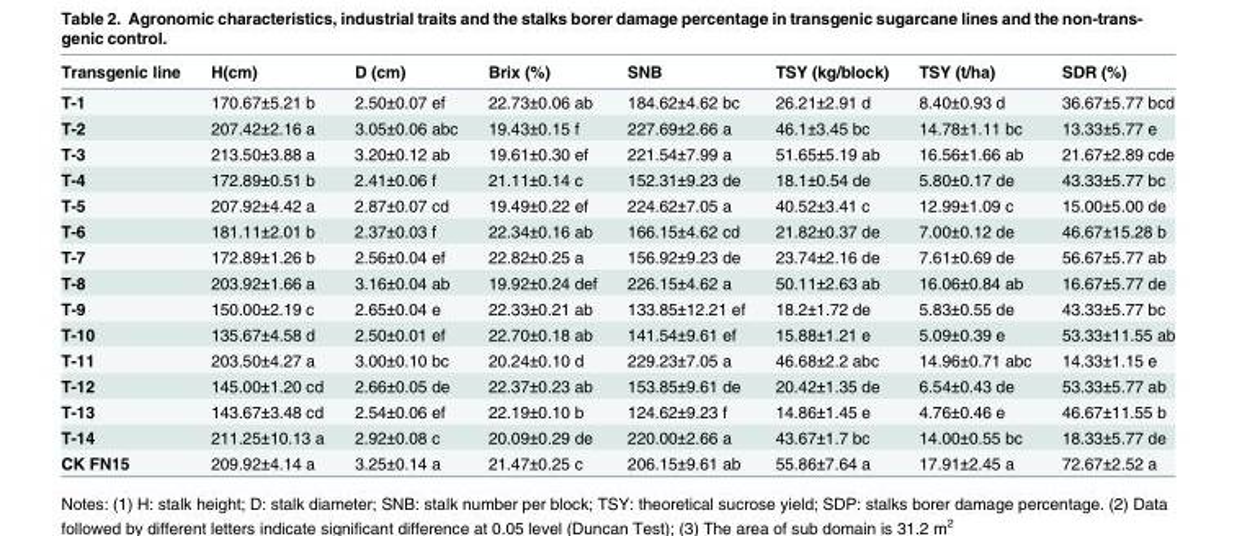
<table><thead><tr><td>Transgenic line</td><td>H(cm)</td><td>D (cm)</td><td>Brix (%)</td><td>SNB</td><td>TSY (kg/block)</td><td>TSY (t/ha)</td><td>SDR (%)</td></tr></thead><tbody><tr><td>T-1</td><td>170.67±5.21 b</td><td>2.50±0.07 ef</td><td>22.73±0.06 ab</td><td>184.62±4.62 bc</td><td>26.21±2.91 d</td><td>8.40±0.93 d</td><td>36.67±5.77 bcd</td></tr><tr><td>T-2</td><td>207.42±2.16 a</td><td>3.05±0.06 abc</td><td>19.43±0.15 f</td><td>227.69±2.66 a</td><td>46.1±3.45 bc</td><td>14.78±1.11 bc</td><td>13.33±5.77 e</td></tr><tr><td>T-3</td><td>213.50±3.88 a</td><td>3.20±0.12 ab</td><td>19.61±0.30 ef</td><td>221.54±7.99 a</td><td>51.65±5.19 ab</td><td>16.56±1.66 ab</td><td>21.67±2.89 cde</td></tr><tr><td>T-4</td><td>172.89±0.51 b</td><td>2.41±0.06 f</td><td>21.11±0.14 c</td><td>152.31±9.23 de</td><td>18.1±0.54 de</td><td>5.80±0.17 de</td><td>43.33±5.77 bc</td></tr><tr><td>T-5</td><td>207.92±4.42 a</td><td>2.87±0.07 cd</td><td>19.49±0.22 ef</td><td>224.62±7.05 a</td><td>40.52±3.41 c</td><td>12.99±1.09 c</td><td>15.00±5.00 de</td></tr><tr><td>T-6</td><td>181.11±2.01 b</td><td>2.37±0.03 f</td><td>22.34±0.16 ab</td><td>166.15±4.62 cd</td><td>21.82±0.37 de</td><td>7.00±0.12 de</td><td>46.67±15.28 b</td></tr><tr><td>T-7</td><td>172.89±1.26 b</td><td>2.56±0.04 ef</td><td>22.82±0.25 a</td><td>156.92±9.23 de</td><td>23.74±2.16 de</td><td>7.61±0.69 de</td><td>56.67±5.77 ab</td></tr><tr><td>T-8</td><td>203.92±1.66 a</td><td>3.16±0.04 ab</td><td>19.92±0.24 def</td><td>226.15±4.62 a</td><td>50.11±2.63 ab</td><td>16.06±0.84 ab</td><td>16.67±5.77 de</td></tr><tr><td>T-9</td><td>150.00±2.19 c</td><td>2.65±0.04 e</td><td>22.33±0.21 ab</td><td>133.85±12.21 ef</td><td>18.2±1.72 de</td><td>5.83±0.55 de</td><td>43.33±5.77 bc</td></tr><tr><td>T-10</td><td>135.67±4.58 d</td><td>2.50±0.01 ef</td><td>22.70±0.18 ab</td><td>141.54±9.61 ef</td><td>15.88±1.21 e</td><td>5.09±0.39 e</td><td>53.33±11.55 ab</td></tr><tr><td>T-11</td><td>203.50±4.27 a</td><td>3.00±0.10 bc</td><td>20.24±0.10 d</td><td>229.23±7.05 a</td><td>46.68±2.2 abc</td><td>14.96±0.71 abc</td><td>14.33±1.15 e</td></tr><tr><td>T-12</td><td>145.00±1.20 cd</td><td>2.66±0.05 de</td><td>22.37±0.23 ab</td><td>153.85±9.61 de</td><td>20.42±1.35 de</td><td>6.54±0.43 de</td><td>53.33±5.77 ab</td></tr><tr><td>T-13</td><td>143.67±3.48 cd</td><td>2.54±0.06 ef</td><td>22.19±0.10 b</td><td>124.62±9.23 f</td><td>14.86±1.45 e</td><td>4.76±0.46 e</td><td>46.67±11.55 b</td></tr><tr><td>T-14</td><td>211.25±10.13 a</td><td>2.92±0.08 c</td><td>20.09±0.29 de</td><td>220.00±2.66 a</td><td>43.67±1.7 bc</td><td>14.00±0.55 bc</td><td>18.33±5.77 de</td></tr><tr><td>CK FN15</td><td>209.92±4.14 a</td><td>3.25±0.14 a</td><td>21.47±0.25 c</td><td>206.15±9.61 ab</td><td>55.86±7.64 a</td><td>17.91±2.45 a</td><td>72.67±2.52 a</td></tr></tbody></table>